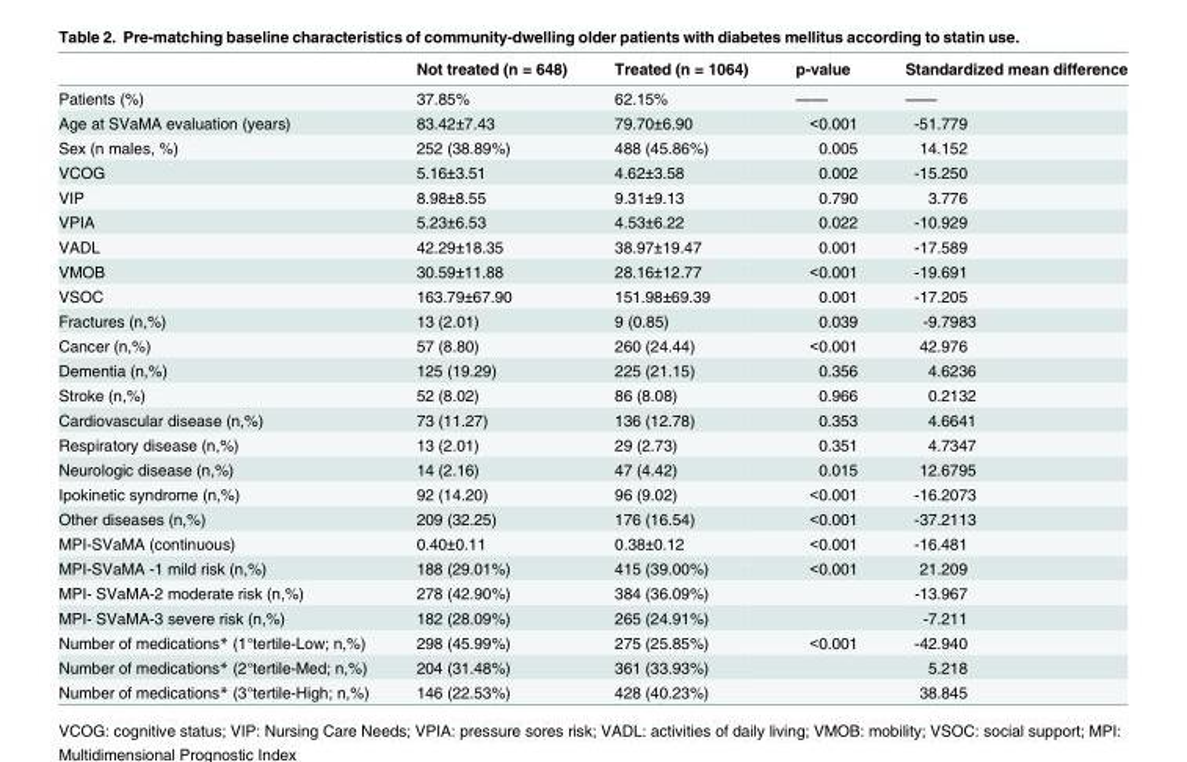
<table><thead><tr><td></td><td>Not treated (n = 648)</td><td>Treated (n = 1064)</td><td>p-value</td><td>Standardized mean difference</td></tr></thead><tbody><tr><td>Patients (%)</td><td>37.85%</td><td>62.15%</td><td>——</td><td>——</td></tr><tr><td>Age at SVaMA evaluation (years)</td><td>83.42±7.43</td><td>79.70±6.90</td><td>&lt;0.001</td><td>-51.779</td></tr><tr><td>Sex (n males, %)</td><td>252 (38.89%)</td><td>488 (45.86%)</td><td>0.005</td><td>14.152</td></tr><tr><td>VCOG</td><td>5.16±3.51</td><td>4.62±3.58</td><td>0.002</td><td>-15.250</td></tr><tr><td>VIP</td><td>8.98±8.55</td><td>9.31±9.13</td><td>0.790</td><td>3.776</td></tr><tr><td>VPIA</td><td>5.23±6.53</td><td>4.53±6.22</td><td>0.022</td><td>-10.929</td></tr><tr><td>VADL</td><td>42.29±18.35</td><td>38.97±19.47</td><td>0.001</td><td>-17.589</td></tr><tr><td>VMOB</td><td>30.59±11.88</td><td>28.16±12.77</td><td>&lt;0.001</td><td>-19.691</td></tr><tr><td>VSOC</td><td>163.79±67.90</td><td>151.98±69.39</td><td>0.001</td><td>-17.205</td></tr><tr><td>Fractures (n,%)</td><td>13 (2.01)</td><td>9 (0.85)</td><td>0.039</td><td>-9.7983</td></tr><tr><td>Cancer (n,%)</td><td>57 (8.80)</td><td>260 (24.44)</td><td>&lt;0.001</td><td>42.976</td></tr><tr><td>Dementia (n,%)</td><td>125 (19.29)</td><td>225 (21.15)</td><td>0.356</td><td>4.6236</td></tr><tr><td>Stroke (n,%)</td><td>52 (8.02)</td><td>86 (8.08)</td><td>0.966</td><td>0.2132</td></tr><tr><td>Cardiovascular disease (n,%)</td><td>73 (11.27)</td><td>136 (12.78)</td><td>0.353</td><td>4.6641</td></tr><tr><td>Respiratory disease (n,%)</td><td>13 (2.01)</td><td>29 (2.73)</td><td>0.351</td><td>4.7347</td></tr><tr><td>Neurologic disease (n,%)</td><td>14 (2.16)</td><td>47 (4.42)</td><td>0.015</td><td>12.6795</td></tr><tr><td>Ipokinetic syndrome (n,%)</td><td>92 (14.20)</td><td>96 (9.02)</td><td>&lt;0.001</td><td>-16.2073</td></tr><tr><td>Other diseases (n,%)</td><td>209 (32.25)</td><td>176 (16.54)</td><td>&lt;0.001</td><td>-37.2113</td></tr><tr><td>MPI-SVaMA (continuous)</td><td>0.40±0.11</td><td>0.38±0.12</td><td>&lt;0.001</td><td>-16.481</td></tr><tr><td>MPI-SVaMA -1 mild risk (n,%)</td><td>188 (29.01%)</td><td>415 (39.00%)</td><td>&lt;0.001</td><td>21.209</td></tr><tr><td>MPI- SVaMA-2 moderate risk (n,%)</td><td>278 (42.90%)</td><td>384 (36.09%)</td><td></td><td>-13.967</td></tr><tr><td>MPI- SVaMA-3 severe risk (n,%)</td><td>182 (28.09%)</td><td>265 (24.91%)</td><td></td><td>-7.211</td></tr><tr><td>Number of medications* (1°tertile-Low; n,%)</td><td>298 (45.99%)</td><td>275 (25.85%)</td><td>&lt;0.001</td><td>-42.940</td></tr><tr><td>Number of medications* (2°tertile-Med; n,%)</td><td>204 (31.48%)</td><td>361 (33.93%)</td><td></td><td>5.218</td></tr><tr><td>Number of medications* (3°tertile-High; n,%)</td><td>146 (22.53%)</td><td>428 (40.23%)</td><td></td><td>38.845</td></tr></tbody></table>